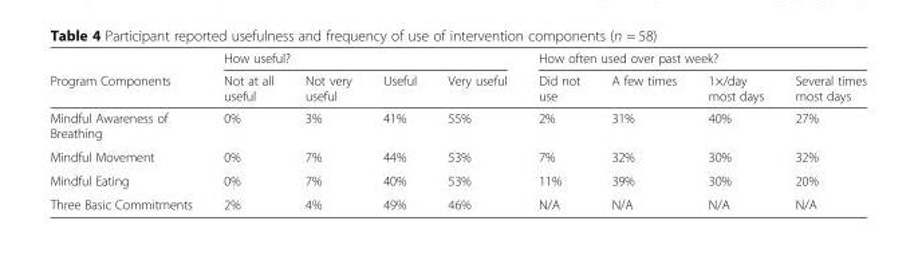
<table><thead><tr><td rowspan="2">Program Components</td><td colspan="4">How useful?</td><td colspan="4">How often used over past week?</td></tr><tr><td>Not at all useful</td><td>Not very useful</td><td>Useful</td><td>Very useful</td><td>Did not use</td><td>A few times</td><td>1×/day most days</td><td>Several times most days</td></tr></thead><tbody><tr><td>Mindful Awareness of Breathing</td><td>0%</td><td>3%</td><td>41%</td><td>55%</td><td>2%</td><td>31%</td><td>40%</td><td>27%</td></tr><tr><td>Mindful Movement</td><td>0%</td><td>7%</td><td>44%</td><td>53%</td><td>7%</td><td>32%</td><td>30%</td><td>32%</td></tr><tr><td>Mindful Eating</td><td>0%</td><td>7%</td><td>40%</td><td>53%</td><td>11%</td><td>39%</td><td>30%</td><td>20%</td></tr><tr><td>Three Basic Commitments</td><td>2%</td><td>4%</td><td>49%</td><td>46%</td><td>N/A</td><td>N/A</td><td>N/A</td><td>N/A</td></tr></tbody></table>